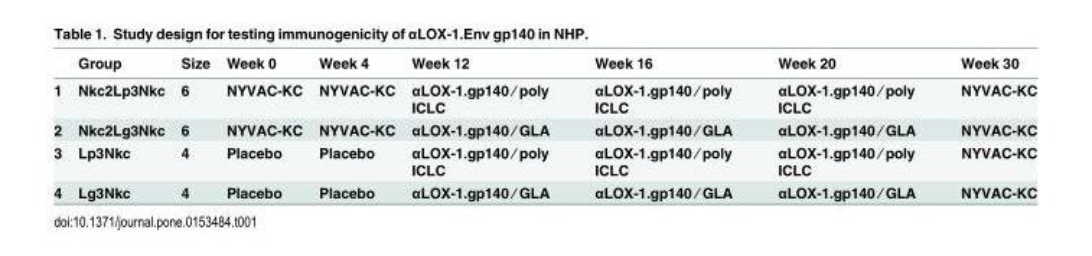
<table><thead><tr><td></td><td>Group</td><td>Size</td><td>Week 0</td><td>Week 4</td><td>Week 12</td><td>Week 16</td><td>Week 20</td><td>Week 30</td></tr></thead><tbody><tr><td>1</td><td>Nkc2Lp3Nkc</td><td>6</td><td>NYVAC-KC</td><td>NYVAC-KC</td><td>αLOX-1.gp140 ⁄ poly ICLC</td><td>αLOX-1.gp140 ⁄ poly ICLC</td><td>αLOX-1.gp140 ⁄ poly ICLC</td><td>NYVAC-KC</td></tr><tr><td>2</td><td>Nkc2Lg3Nkc</td><td>6</td><td>NYVAC-KC</td><td>NYVAC-KC</td><td>αLOX-1.gp140 ⁄ GLA</td><td>αLOX-1.gp140 ⁄ GLA</td><td>αLOX-1.gp140 ⁄ GLA</td><td>NYVAC-KC</td></tr><tr><td>3</td><td>Lp3Nkc</td><td>4</td><td>Placebo</td><td>Placebo</td><td>αLOX-1.gp140 ⁄ poly ICLC</td><td>αLOX-1.gp140 ⁄ poly ICLC</td><td>αLOX-1.gp140 ⁄ poly ICLC</td><td>NYVAC-KC</td></tr><tr><td>4</td><td>Lg3Nkc</td><td>4</td><td>Placebo</td><td>Placebo</td><td>αLOX-1.gp140 ⁄ GLA</td><td>αLOX-1.gp140 ⁄ GLA</td><td>αLOX-1.gp140 ⁄ GLA</td><td>NYVAC-KC</td></tr></tbody></table>